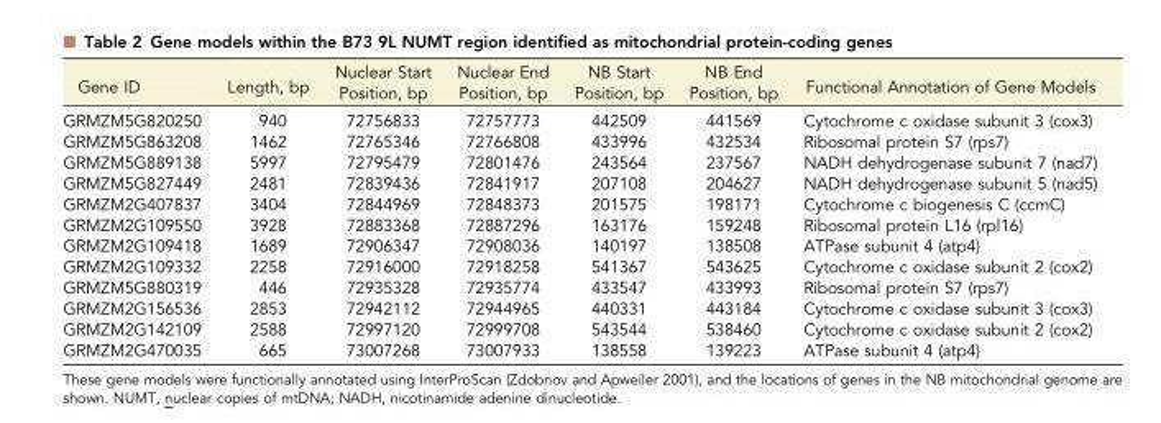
<table><thead><tr><td>Gene ID</td><td>Length, bp</td><td>Nuclear Start Position, bp</td><td>Nuclear End Position, bp</td><td>NB Start Position, bp</td><td>NB End Position, bp</td><td>Functional Annotation of Gene Models</td></tr></thead><tbody><tr><td>GRMZM5G820250</td><td>940</td><td>72756833</td><td>72757773</td><td>442509</td><td>441569</td><td>Cytochrome c oxidase subunit 3 (cox3)</td></tr><tr><td>GRMZM5G863208</td><td>1462</td><td>72765346</td><td>72766808</td><td>433996</td><td>432534</td><td>Ribosomal protein S7 (rps7)</td></tr><tr><td>GRMZM5G889138</td><td>5997</td><td>72795479</td><td>72801476</td><td>243564</td><td>237567</td><td>NADH dehydrogenase subunit 7 (nad7)</td></tr><tr><td>GRMZM5G827449</td><td>2481</td><td>72839436</td><td>72841917</td><td>207108</td><td>204627</td><td>NADH dehydrogenase subunit 5 (nad5)</td></tr><tr><td>GRMZM2G407837</td><td>3404</td><td>72844969</td><td>72848373</td><td>201575</td><td>198171</td><td>Cytochrome c biogenesis C (ccmC)</td></tr><tr><td>GRMZM2G109550</td><td>3928</td><td>72883368</td><td>72887296</td><td>163176</td><td>159248</td><td>Ribosomal protein L16 (rpl16)</td></tr><tr><td>GRMZM2G109418</td><td>1689</td><td>72906347</td><td>72908036</td><td>140197</td><td>138508</td><td>ATPase subunit 4 (atp4)</td></tr><tr><td>GRMZM2G109332</td><td>2258</td><td>72916000</td><td>72918258</td><td>541367</td><td>543625</td><td>Cytochrome c oxidase subunit 2 (cox2)</td></tr><tr><td>GRMZM5G880319</td><td>446</td><td>72935328</td><td>72935774</td><td>433547</td><td>433993</td><td>Ribosomal protein S7 (rps7)</td></tr><tr><td>GRMZM2G156536</td><td>2853</td><td>72942112</td><td>72944965</td><td>440331</td><td>443184</td><td>Cytochrome c oxidase subunit 3 (cox3)</td></tr><tr><td>GRMZM2G142109</td><td>2588</td><td>72997120</td><td>72999708</td><td>543544</td><td>538460</td><td>Cytochrome c oxidase subunit 2 (cox2)</td></tr><tr><td>GRMZM2G470035</td><td>665</td><td>73007268</td><td>73007933</td><td>138558</td><td>139223</td><td>ATPase subunit 4 (atp4)</td></tr></tbody></table>